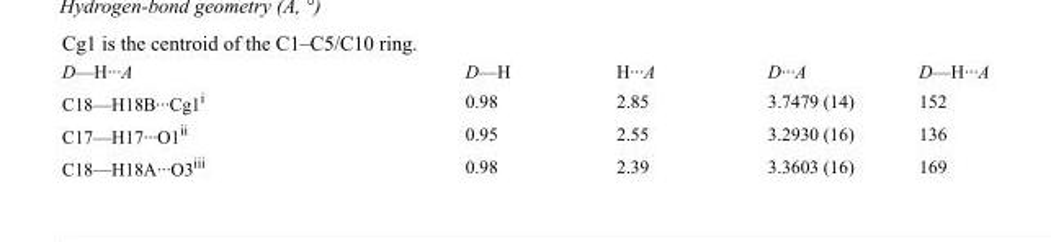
<table><tbody><tr><td>D—H···A</td><td>D—H</td><td>H···A</td><td>D···A</td><td>D—H···A</td></tr><tr><td>C18—H18B···Cg1<sup>i</sup></td><td>0.98</td><td>2.85</td><td>3.7479 (14)</td><td>152</td></tr><tr><td>C17—H17···O1<sup>ii</sup></td><td>0.95</td><td>2.55</td><td>3.2930 (16)</td><td>136</td></tr><tr><td>C18—H18A···O3<sup>iii</sup></td><td>0.98</td><td>2.39</td><td>3.3603 (16)</td><td>169</td></tr></tbody></table>